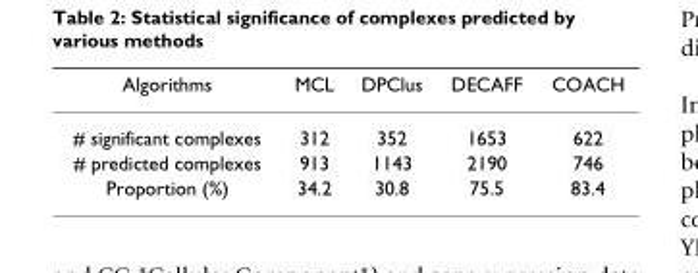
<table><thead><tr><td>Algorithms</td><td>MCL</td><td>DPClus</td><td>DECAFF</td><td>COACH</td></tr></thead><tbody><tr><td># significant complexes</td><td>312</td><td>352</td><td>1653</td><td>622</td></tr><tr><td># predicted complexes</td><td>913</td><td>1143</td><td>2190</td><td>746</td></tr><tr><td>Proportion (%)</td><td>34.2</td><td>30.8</td><td>75.5</td><td>83.4</td></tr></tbody></table>